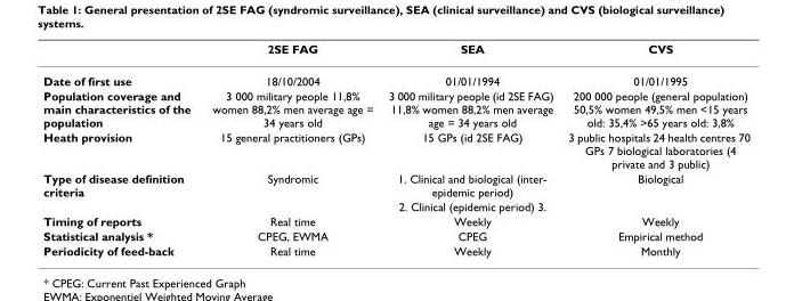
<table><thead><tr><td></td><td>2SE FAG</td><td>SEA</td><td>CVS</td></tr></thead><tbody><tr><td>Date of first use</td><td>18/10/2004</td><td>01/01/1994</td><td>01/01/1995</td></tr><tr><td>Population coverage and main characteristics of the population</td><td>3 000 military people 11,8% women 88,2% men average age = 34 years old</td><td>3 000 military people (id 2SE FAG) 11,8% women 88,2% men average age = 34 years old</td><td>200 000 people (general population) 50,5% women 49,5% men &lt;15 years old: 35,4% &gt;65 years old: 3,8%</td></tr><tr><td>Heath provision</td><td>15 general practitioners (GPs)</td><td>15 GPs (id 2SE FAG)</td><td>3 public hospitals 24 health centres 70 GPs 7 biological laboratories (4 private and 3 public)</td></tr><tr><td rowspan="2">Type of disease definition criteria</td><td>Syndromic</td><td>1. Clinical and biological (inter- epidemic period)</td><td>Biological</td></tr><tr><td></td><td>2. Clinical (epidemic period) 3.</td><td></td></tr><tr><td>Timing of reports</td><td>Real time</td><td>Weekly</td><td>Weekly</td></tr><tr><td>Statistical analysis *</td><td>CPEG, EWMA</td><td>CPEG</td><td>Empirical method</td></tr><tr><td>Periodicity of feed-back</td><td>Real time</td><td>Weekly</td><td>Monthly</td></tr></tbody></table>